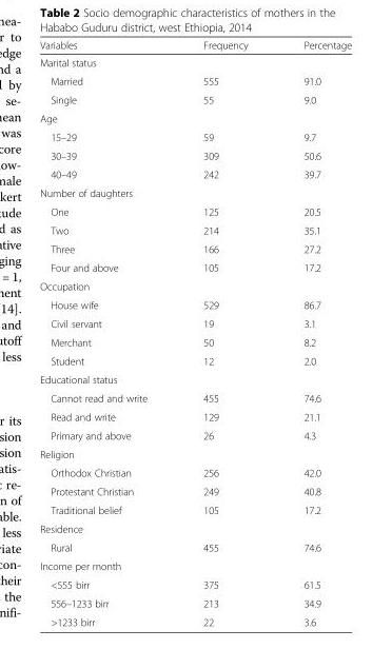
<table><thead><tr><td>Variables</td><td>Frequency</td><td>Percentage</td></tr></thead><tbody><tr><td colspan="3">Marital status</td></tr><tr><td>Married</td><td>555</td><td>91.0</td></tr><tr><td>Single</td><td>55</td><td>9.0</td></tr><tr><td colspan="3">Age</td></tr><tr><td>15–29</td><td>59</td><td>9.7</td></tr><tr><td>30–39</td><td>309</td><td>50.6</td></tr><tr><td>40–49</td><td>242</td><td>39.7</td></tr><tr><td colspan="3">Number of daughters</td></tr><tr><td>One</td><td>125</td><td>20.5</td></tr><tr><td>Two</td><td>214</td><td>35.1</td></tr><tr><td>Three</td><td>166</td><td>27.2</td></tr><tr><td>Four and above</td><td>105</td><td>17.2</td></tr><tr><td colspan="3">Occupation</td></tr><tr><td>House wife</td><td>529</td><td>86.7</td></tr><tr><td>Civil servant</td><td>19</td><td>3.1</td></tr><tr><td>Merchant</td><td>50</td><td>8.2</td></tr><tr><td>Student</td><td>12</td><td>2.0</td></tr><tr><td colspan="3">Educational status</td></tr><tr><td>Cannot read and write</td><td>455</td><td>74.6</td></tr><tr><td>Read and write</td><td>129</td><td>21.1</td></tr><tr><td>Primary and above</td><td>26</td><td>4.3</td></tr><tr><td colspan="3">Religion</td></tr><tr><td>Orthodox Christian</td><td>256</td><td>42.0</td></tr><tr><td>Protestant Christian</td><td>249</td><td>40.8</td></tr><tr><td>Traditional belief</td><td>105</td><td>17.2</td></tr><tr><td colspan="3">Residence</td></tr><tr><td>Rural</td><td>455</td><td>74.6</td></tr><tr><td colspan="3">Income per month</td></tr><tr><td>&lt;555 birr</td><td>375</td><td>61.5</td></tr><tr><td>556–1233 birr</td><td>213</td><td>34.9</td></tr><tr><td>&gt;1233 birr</td><td>22</td><td>3.6</td></tr></tbody></table>